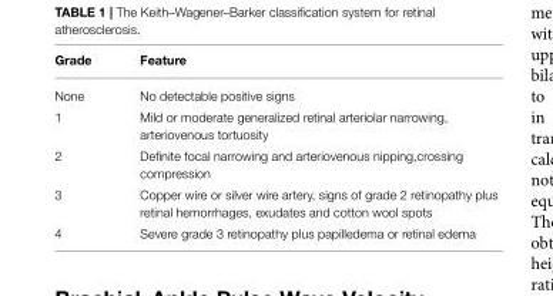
<table><thead><tr><td>Grade</td><td>Feature</td></tr></thead><tbody><tr><td>None</td><td>No detectable positive signs</td></tr><tr><td>1</td><td>Mild or moderate generalized retinal arteriolar narrowing, arteriovenous tortuosity</td></tr><tr><td>2</td><td>Definite focal narrowing and arteriovenous nipping,crossing compression</td></tr><tr><td>3</td><td>Copper wire or silver wire artery, signs of grade 2 retinopathy plus retinal hemorrhages, exudates and cotton wool spots</td></tr><tr><td>4</td><td>Severe grade 3 retinopathy plus papilledema or retinal edema</td></tr></tbody></table>